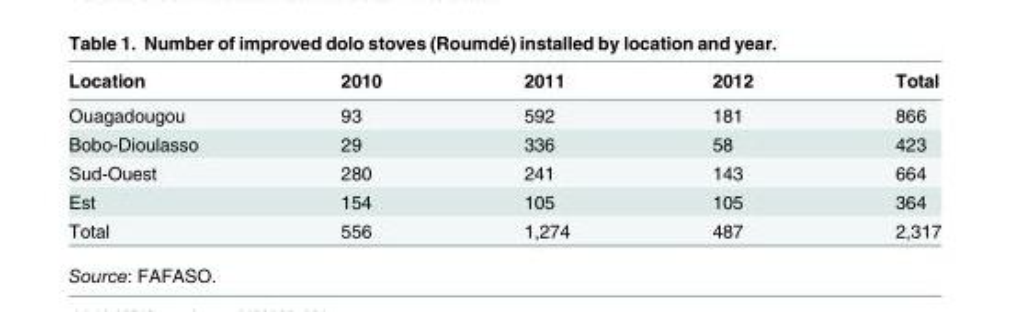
<table><thead><tr><td>Location</td><td>2010</td><td>2011</td><td>2012</td><td>Total</td></tr></thead><tbody><tr><td>Ouagadougou</td><td>93</td><td>592</td><td>181</td><td>866</td></tr><tr><td>Bobo-Dioulasso</td><td>29</td><td>336</td><td>58</td><td>423</td></tr><tr><td>Sud-Ouest</td><td>280</td><td>241</td><td>143</td><td>664</td></tr><tr><td>Est</td><td>154</td><td>105</td><td>105</td><td>364</td></tr><tr><td>Total</td><td>556</td><td>1,274</td><td>487</td><td>2,317</td></tr></tbody></table>